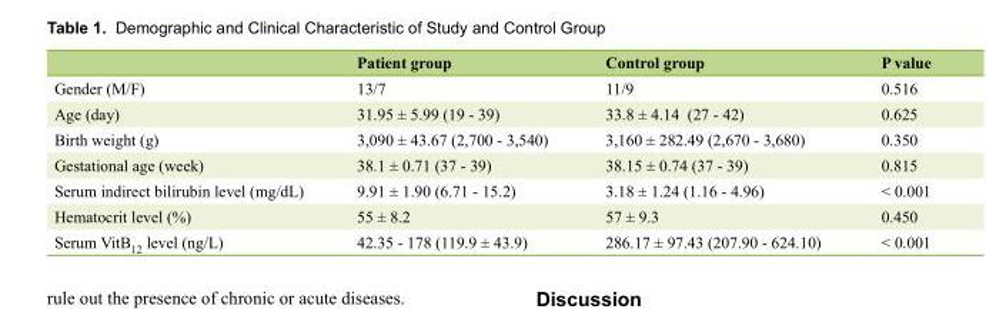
<table><thead><tr><td></td><td>Patient group</td><td>Control group</td><td>P value</td></tr></thead><tbody><tr><td>Gender (M/F)</td><td>13/7</td><td>11/9</td><td>0.516</td></tr><tr><td>Age (day)</td><td>31.95 ± 5.99 (19 - 39)</td><td>33.8 ± 4.14 (27 - 42)</td><td>0.625</td></tr><tr><td>Birth weight (g)</td><td>3,090 ± 43.67 (2,700 - 3,540)</td><td>3,160 ± 282.49 (2,670 - 3,680)</td><td>0.350</td></tr><tr><td>Gestational age (week)</td><td>38.1 ± 0.71 (37 - 39)</td><td>38.15 ± 0.74 (37 - 39)</td><td>0.815</td></tr><tr><td>Serum indirect bilirubin level (mg/dL)</td><td>9.91 ± 1.90 (6.71 - 15.2)</td><td>3.18 ± 1.24 (1.16 - 4.96)</td><td>&lt; 0.001</td></tr><tr><td>Hematocrit level (%)</td><td>55 ± 8.2</td><td>57 ± 9.3</td><td>0.450</td></tr><tr><td>Serum VitB<sub>12</sub> level (ng/L)</td><td>42.35 - 178 (119.9 ± 43.9)</td><td>286.17 ± 97.43 (207.90 - 624.10)</td><td>&lt; 0.001</td></tr></tbody></table>